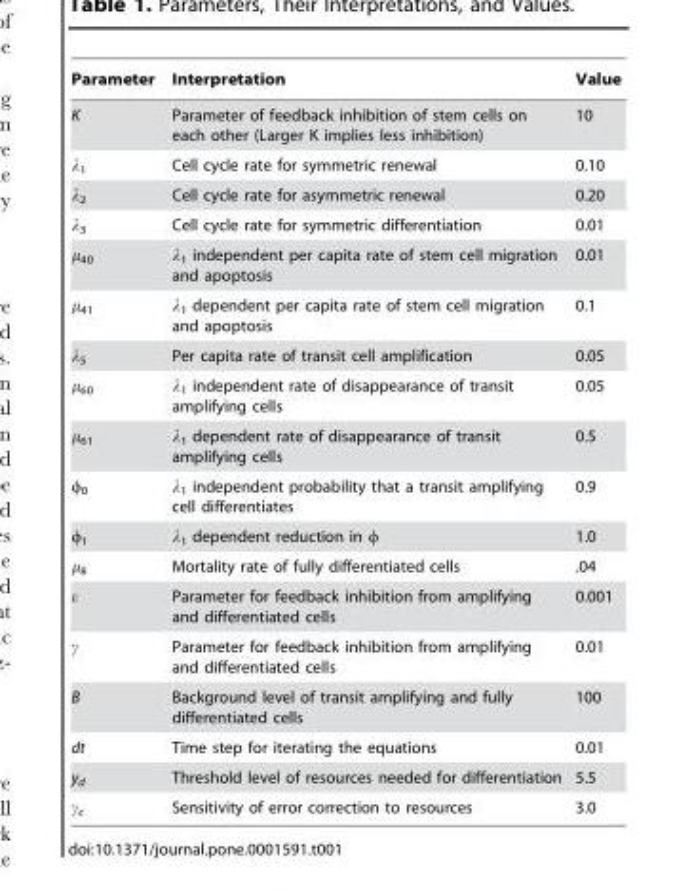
<table><thead><tr><td>Parameter</td><td>Interpretation</td><td>Value</td></tr></thead><tbody><tr><td>K</td><td>Parameter of feedback inhibition of stem cells on each other (Larger K implies less inhibition)</td><td>10</td></tr><tr><td>λ<sub>1</sub></td><td>Cell cycle rate for symmetric renewal</td><td>0.10</td></tr><tr><td>λ<sub>2</sub></td><td>Cell cycle rate for asymmetric renewal</td><td>0.20</td></tr><tr><td>λ<sub>3</sub></td><td>Cell cycle rate for symmetric differentiation</td><td>0.01</td></tr><tr><td>μ<sub>40</sub></td><td>λ<sub>1</sub> independent per capita rate of stem cell migration and apoptosis</td><td>0.01</td></tr><tr><td>μ<sub>41</sub></td><td>λ<sub>1</sub> dependent per capita rate of stem cell migration and apoptosis</td><td>0.1</td></tr><tr><td>λ<sub>5</sub></td><td>Per capita rate of transit cell amplification</td><td>0.05</td></tr><tr><td>μ<sub>60</sub></td><td>λ<sub>1</sub> independent rate of disappearance of transit amplifying cells</td><td>0.05</td></tr><tr><td>μ<sub>61</sub></td><td>λ<sub>1</sub> dependent rate of disappearance of transit amplifying cells</td><td>0.5</td></tr><tr><td>φ<sub>0</sub></td><td>λ<sub>1</sub> independent probability that a transit amplifying cell differentiates</td><td>0.9</td></tr><tr><td>φ<sub>1</sub></td><td>λ<sub>1</sub> dependent reduction in φ</td><td>1.0</td></tr><tr><td>μ<sub>8</sub></td><td>Mortality rate of fully differentiated cells</td><td>.04</td></tr><tr><td>ε</td><td>Parameter for feedback inhibition from amplifying and differentiated cells</td><td>0.001</td></tr><tr><td>γ</td><td>Parameter for feedback inhibition from amplifying and differentiated cells</td><td>0.01</td></tr><tr><td>B</td><td>Background level of transit amplifying and fully differentiated cells</td><td>100</td></tr><tr><td>dt</td><td>Time step for iterating the equations</td><td>0.01</td></tr><tr><td>y<sub>d</sub></td><td>Threshold level of resources needed for differentiation</td><td>5.5</td></tr><tr><td>γ<sub>c</sub></td><td>Sensitivity of error correction to resources</td><td>3.0</td></tr></tbody></table>